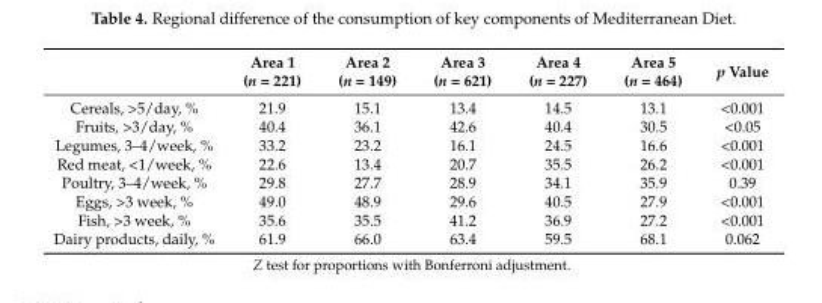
<table><thead><tr><td></td><td>Area 1 (n = 221)</td><td>Area 2 (n = 149)</td><td>Area 3 (n = 621)</td><td>Area 4 (n = 227)</td><td>Area 5 (n = 464)</td><td>p Value</td></tr></thead><tbody><tr><td>Cereals, &gt;5/day, %</td><td>21.9</td><td>15.1</td><td>13.4</td><td>14.5</td><td>13.1</td><td>&lt;0.001</td></tr><tr><td>Fruits, &gt;3/day, %</td><td>40.4</td><td>36.1</td><td>42.6</td><td>40.4</td><td>30.5</td><td>&lt;0.05</td></tr><tr><td>Legumes, 3–4/week, %</td><td>33.2</td><td>23.2</td><td>16.1</td><td>24.5</td><td>16.6</td><td>&lt;0.001</td></tr><tr><td>Red meat, &lt;1/week, %</td><td>22.6</td><td>13.4</td><td>20.7</td><td>35.5</td><td>26.2</td><td>&lt;0.001</td></tr><tr><td>Poultry, 3–4/week, %</td><td>29.8</td><td>27.7</td><td>28.9</td><td>34.1</td><td>35.9</td><td>0.39</td></tr><tr><td>Eggs, &gt;3 week, %</td><td>49.0</td><td>48.9</td><td>29.6</td><td>40.5</td><td>27.9</td><td>&lt;0.001</td></tr><tr><td>Fish, &gt;3 week, %</td><td>35.6</td><td>35.5</td><td>41.2</td><td>36.9</td><td>27.2</td><td>&lt;0.001</td></tr><tr><td>Dairy products, daily, %</td><td>61.9</td><td>66.0</td><td>63.4</td><td>59.5</td><td>68.1</td><td>0.062</td></tr></tbody></table>